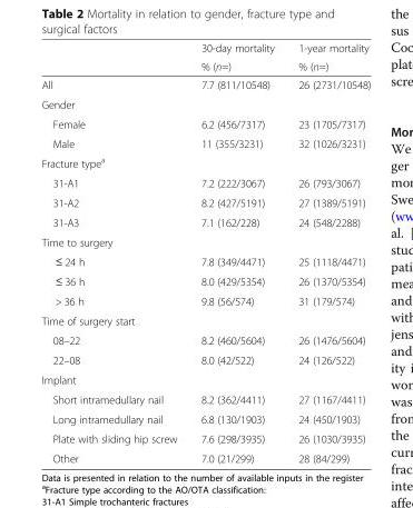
<table><thead><tr><td rowspan="2"></td><td rowspan="2">30-day mortality % (n=)</td><td rowspan="2">1-year mortality % (n=)</td></tr><tr></tr></thead><tbody><tr><td>All</td><td>7.7 (811/10548)</td><td>26 (2731/10548)</td></tr><tr><td colspan="3">Gender</td></tr><tr><td>Female</td><td>6.2 (456/7317)</td><td>23 (1705/7317)</td></tr><tr><td>Male</td><td>11 (355/3231)</td><td>32 (1026/3231)</td></tr><tr><td colspan="3">Fracture type<sup>a</sup></td></tr><tr><td>31-A1</td><td>7.2 (222/3067)</td><td>26 (793/3067)</td></tr><tr><td>31-A2</td><td>8.2 (427/5191)</td><td>27 (1389/5191)</td></tr><tr><td>31-A3</td><td>7.1 (162/228)</td><td>24 (548/2288)</td></tr><tr><td colspan="3">Time to surgery</td></tr><tr><td>≤ 24 h</td><td>7.8 (349/4471)</td><td>25 (1118/4471)</td></tr><tr><td>≤ 36 h</td><td>8.0 (429/5354)</td><td>26 (1370/5354)</td></tr><tr><td>&gt; 36 h</td><td>9.8 (56/574)</td><td>31 (179/574)</td></tr><tr><td colspan="3">Time of surgery start</td></tr><tr><td>08–22</td><td>8.2 (460/5604)</td><td>26 (1476/5604)</td></tr><tr><td>22–08</td><td>8.0 (42/522)</td><td>24 (126/522)</td></tr><tr><td colspan="3">Implant</td></tr><tr><td>Short intramedullary nail</td><td>8.2 (362/4411)</td><td>27 (1167/4411)</td></tr><tr><td>Long intramedullary nail</td><td>6.8 (130/1903)</td><td>24 (450/1903)</td></tr><tr><td>Plate with sliding hip screw</td><td>7.6 (298/3935)</td><td>26 (1030/3935)</td></tr><tr><td>Other</td><td>7.0 (21/299)</td><td>28 (84/299)</td></tr></tbody></table>